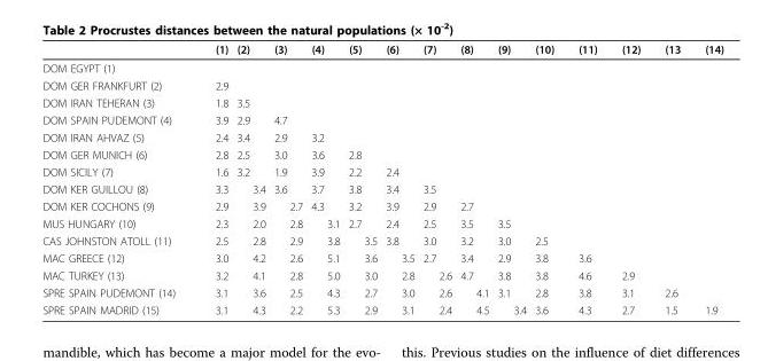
<table><thead><tr><td></td><td>(1)</td><td>(2)</td><td>(3)</td><td>(4)</td><td>(5)</td><td>(6)</td><td>(7)</td><td>(8)</td><td>(9)</td><td>(10)</td><td>(11)</td><td>(12)</td><td>(13</td><td>(14)</td></tr></thead><tbody><tr><td colspan="15">DOM EGYPT (1)</td></tr><tr><td>DOM GER FRANKFURT (2)</td><td>2.9</td><td></td><td></td><td></td><td></td><td></td><td></td><td></td><td></td><td></td><td></td><td></td><td></td><td></td></tr><tr><td>DOM IRAN TEHERAN (3)</td><td>1.8</td><td>3.5</td><td></td><td></td><td></td><td></td><td></td><td></td><td></td><td></td><td></td><td></td><td></td><td></td></tr><tr><td>DOM SPAIN PUDEMONT (4)</td><td>3.9</td><td>2.9</td><td>4.7</td><td></td><td></td><td></td><td></td><td></td><td></td><td></td><td></td><td></td><td></td><td></td></tr><tr><td>DOM IRAN AHVAZ (5)</td><td>2.4</td><td>3.4</td><td>2.9</td><td>3.2</td><td></td><td></td><td></td><td></td><td></td><td></td><td></td><td></td><td></td><td></td></tr><tr><td>DOM GER MUNICH (6)</td><td>2.8</td><td>2.5</td><td>3.0</td><td>3.6</td><td>2.8</td><td></td><td></td><td></td><td></td><td></td><td></td><td></td><td></td><td></td></tr><tr><td>DOM SICILY (7)</td><td>1.6</td><td>3.2</td><td>1.9</td><td>3.9</td><td>2.2</td><td>2.4</td><td></td><td></td><td></td><td></td><td></td><td></td><td></td><td></td></tr><tr><td>DOM KER GUILLOU (8)</td><td>3.3</td><td>3.4</td><td>3.6</td><td>3.7</td><td>3.8</td><td>3.4</td><td>3.5</td><td></td><td></td><td></td><td></td><td></td><td></td><td></td></tr><tr><td>DOM KER COCHONS (9)</td><td>2.9</td><td>3.9</td><td>2.7</td><td>4.3</td><td>3.2</td><td>3.9</td><td>2.9</td><td>2.7</td><td></td><td></td><td></td><td></td><td></td><td></td></tr><tr><td>MUS HUNGARY (10)</td><td>2.3</td><td>2.0</td><td>2.8</td><td>3.1</td><td>2.7</td><td>2.4</td><td>2.5</td><td>3.5</td><td>3.5</td><td></td><td></td><td></td><td></td><td></td></tr><tr><td>CAS JOHNSTON ATOLL (11)</td><td>2.5</td><td>2.8</td><td>2.9</td><td>3.8</td><td>3.5</td><td>3.8</td><td>3.0</td><td>3.2</td><td>3.0</td><td>2.5</td><td></td><td></td><td></td><td></td></tr><tr><td>MAC GREECE (12)</td><td>3.0</td><td>4.2</td><td>2.6</td><td>5.1</td><td>3.6</td><td>3.5</td><td>2.7</td><td>3.4</td><td>2.9</td><td>3.8</td><td>3.6</td><td></td><td></td><td></td></tr><tr><td>MAC TURKEY (13)</td><td>3.2</td><td>4.1</td><td>2.8</td><td>5.0</td><td>3.0</td><td>2.8</td><td>2.6</td><td>4.7</td><td>3.8</td><td>3.8</td><td>4.6</td><td>2.9</td><td></td><td></td></tr><tr><td>SPRE SPAIN PUDEMONT (14)</td><td>3.1</td><td>3.6</td><td>2.5</td><td>4.3</td><td>2.7</td><td>3.0</td><td>2.6</td><td>4.1</td><td>3.1</td><td>2.8</td><td>3.8</td><td>3.1</td><td>2.6</td><td></td></tr><tr><td>SPRE SPAIN MADRID (15)</td><td>3.1</td><td>4.3</td><td>2.2</td><td>5.3</td><td>2.9</td><td>3.1</td><td>2.4</td><td>4.5</td><td>3.4</td><td>3.6</td><td>4.3</td><td>2.7</td><td>1.5</td><td>1.9</td></tr></tbody></table>